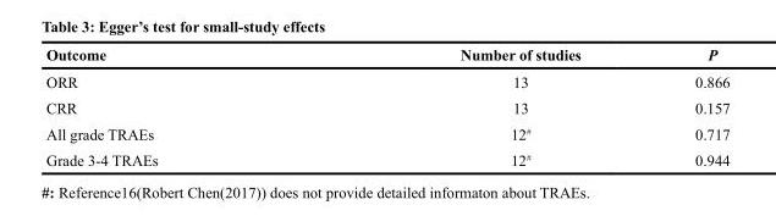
<table><thead><tr><td>Outcome</td><td>Number of studies</td><td>P</td></tr></thead><tbody><tr><td>ORR</td><td>13</td><td>0.866</td></tr><tr><td>CRR</td><td>13</td><td>0.157</td></tr><tr><td>All grade TRAEs</td><td>12<sup>#</sup></td><td>0.717</td></tr><tr><td>Grade 3-4 TRAEs</td><td>12<sup>#</sup></td><td>0.944</td></tr></tbody></table>